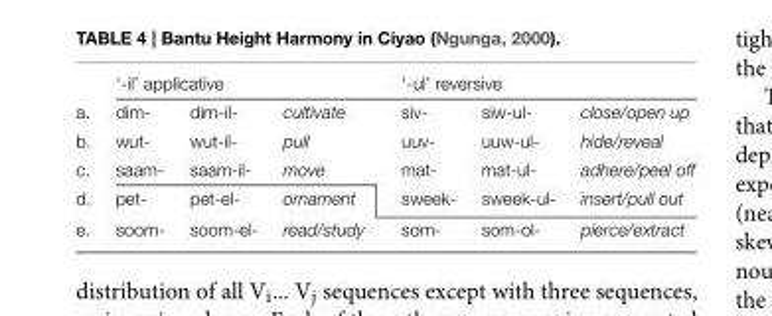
<table><thead><tr><td rowspan="2">a.</td><td colspan="3">‘-il’ applicative</td><td colspan="3">‘-ul’ reversive</td></tr><tr><td>dim-</td><td>dim-il-</td><td>cultivate</td><td>siv-</td><td>siw-ul-</td><td>close/open up</td></tr></thead><tbody><tr><td>b.</td><td>wut-</td><td>wut-il-</td><td>pull</td><td>uuv-</td><td>uuw-ul-</td><td>hide/reveal</td></tr><tr><td>c.</td><td>saam-</td><td>saam-il-</td><td>move</td><td>mat-</td><td>mat-ul-</td><td>adhere/peel off</td></tr><tr><td>d.</td><td>pet-</td><td>pet-el-</td><td>ornament</td><td>sweek-</td><td>sweek-ul-</td><td>insert/pull out</td></tr><tr><td>e.</td><td>soom-</td><td>soom-el-</td><td>read/study</td><td>som-</td><td>som-ol-</td><td>pierce/extract</td></tr></tbody></table>